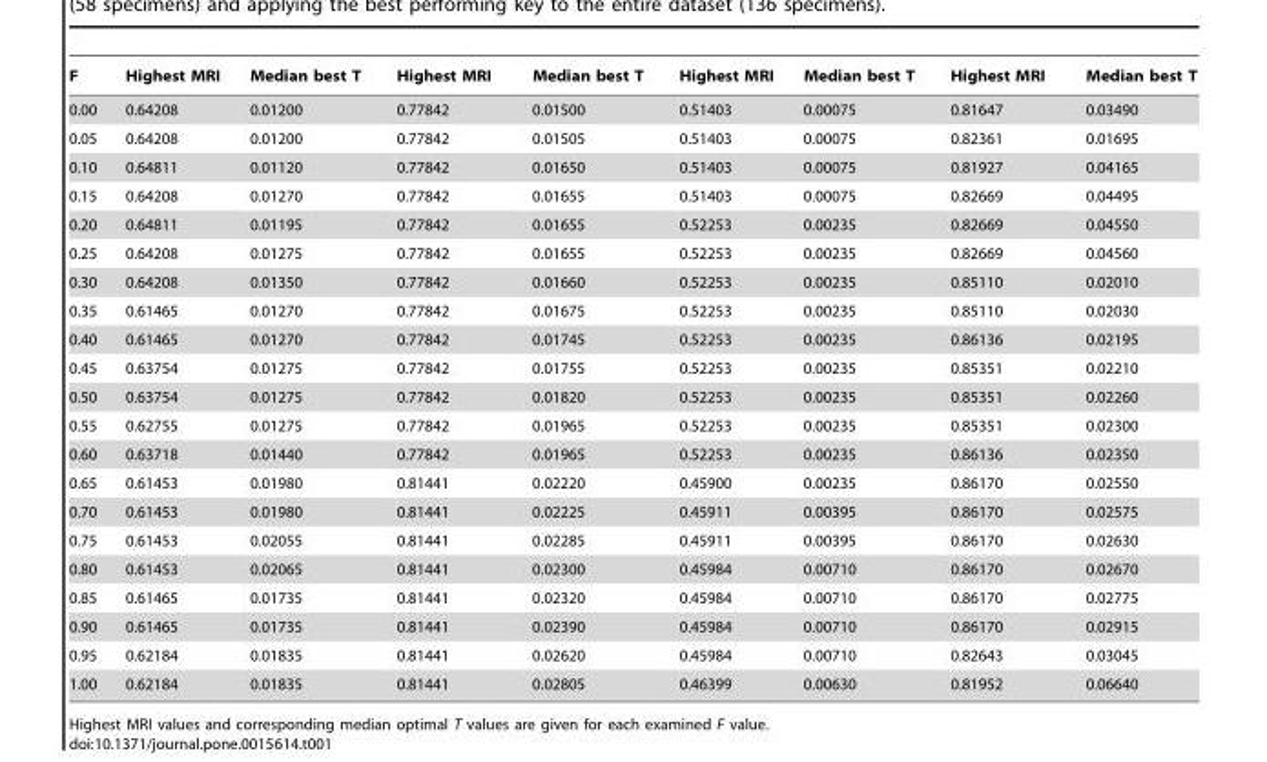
<table><thead><tr><td>F</td><td>Highest MRI</td><td>Median best T</td><td>Highest MRI</td><td>Median best T</td><td>Highest MRI</td><td>Median best T</td><td>Highest MRI</td><td>Median best T</td></tr></thead><tbody><tr><td>0.00</td><td>0.64208</td><td>0.01200</td><td>0.77842</td><td>0.01500</td><td>0.51403</td><td>0.00075</td><td>0.81647</td><td>0.03490</td></tr><tr><td>0.05</td><td>0.64208</td><td>0.01200</td><td>0.77842</td><td>0.01505</td><td>0.51403</td><td>0.00075</td><td>0.82361</td><td>0.01695</td></tr><tr><td>0.10</td><td>0.64811</td><td>0.01120</td><td>0.77842</td><td>0.01650</td><td>0.51403</td><td>0.00075</td><td>0.81927</td><td>0.04165</td></tr><tr><td>0.15</td><td>0.64208</td><td>0.01270</td><td>0.77842</td><td>0.01655</td><td>0.51403</td><td>0.00075</td><td>0.82669</td><td>0.04495</td></tr><tr><td>0.20</td><td>0.64811</td><td>0.01195</td><td>0.77842</td><td>0.01655</td><td>0.52253</td><td>0.00235</td><td>0.82669</td><td>0.04550</td></tr><tr><td>0.25</td><td>0.64208</td><td>0.01275</td><td>0.77842</td><td>0.01655</td><td>0.52253</td><td>0.00235</td><td>0.82669</td><td>0.04560</td></tr><tr><td>0.30</td><td>0.64208</td><td>0.01350</td><td>0.77842</td><td>0.01660</td><td>0.52253</td><td>0.00235</td><td>0.85110</td><td>0.02010</td></tr><tr><td>0.35</td><td>0.61465</td><td>0.01270</td><td>0.77842</td><td>0.01675</td><td>0.52253</td><td>0.00235</td><td>0.85110</td><td>0.02030</td></tr><tr><td>0.40</td><td>0.61465</td><td>0.01270</td><td>0.77842</td><td>0.01745</td><td>0.52253</td><td>0.00235</td><td>0.86136</td><td>0.02195</td></tr><tr><td>0.45</td><td>0.63754</td><td>0.01275</td><td>0.77842</td><td>0.01755</td><td>0.52253</td><td>0.00235</td><td>0.85351</td><td>0.02210</td></tr><tr><td>0.50</td><td>0.63754</td><td>0.01275</td><td>0.77842</td><td>0.01820</td><td>0.52253</td><td>0.00235</td><td>0.85351</td><td>0.02260</td></tr><tr><td>0.55</td><td>0.62755</td><td>0.01275</td><td>0.77842</td><td>0.01965</td><td>0.52253</td><td>0.00235</td><td>0.85351</td><td>0.02300</td></tr><tr><td>0.60</td><td>0.63718</td><td>0.01440</td><td>0.77842</td><td>0.01965</td><td>0.52253</td><td>0.00235</td><td>0.86136</td><td>0.02350</td></tr><tr><td>0.65</td><td>0.61453</td><td>0.01980</td><td>0.81441</td><td>0.02220</td><td>0.45900</td><td>0.00235</td><td>0.86170</td><td>0.02550</td></tr><tr><td>0.70</td><td>0.61453</td><td>0.01980</td><td>0.81441</td><td>0.02225</td><td>0.45911</td><td>0.00395</td><td>0.86170</td><td>0.02575</td></tr><tr><td>0.75</td><td>0.61453</td><td>0.02055</td><td>0.81441</td><td>0.02285</td><td>0.45911</td><td>0.00395</td><td>0.86170</td><td>0.02630</td></tr><tr><td>0.80</td><td>0.61453</td><td>0.02065</td><td>0.81441</td><td>0.02300</td><td>0.45984</td><td>0.00710</td><td>0.86170</td><td>0.02670</td></tr><tr><td>0.85</td><td>0.61465</td><td>0.01735</td><td>0.81441</td><td>0.02320</td><td>0.45984</td><td>0.00710</td><td>0.86170</td><td>0.02775</td></tr><tr><td>0.90</td><td>0.61465</td><td>0.01735</td><td>0.81441</td><td>0.02390</td><td>0.45984</td><td>0.00710</td><td>0.86170</td><td>0.02915</td></tr><tr><td>0.95</td><td>0.62184</td><td>0.01835</td><td>0.81441</td><td>0.02620</td><td>0.45984</td><td>0.00710</td><td>0.82643</td><td>0.03045</td></tr><tr><td>1.00</td><td>0.62184</td><td>0.01835</td><td>0.81441</td><td>0.02805</td><td>0.46399</td><td>0.00630</td><td>0.81952</td><td>0.06640</td></tr></tbody></table>